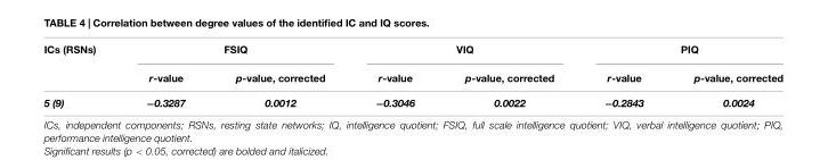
<table><thead><tr><td rowspan="2">ICs (RSNs)</td><td colspan="2">FSIQ</td><td colspan="2">VIQ</td><td colspan="2">PIQ</td></tr><tr><td>r-value</td><td>p-value, corrected</td><td>r-value</td><td>p-value, corrected</td><td>r-value</td><td>p-value, corrected</td></tr></thead><tbody><tr><td>5 (9)</td><td>−0.3287</td><td>0.0012</td><td>−0.3046</td><td>0.0022</td><td>−0.2843</td><td>0.0024</td></tr></tbody></table>